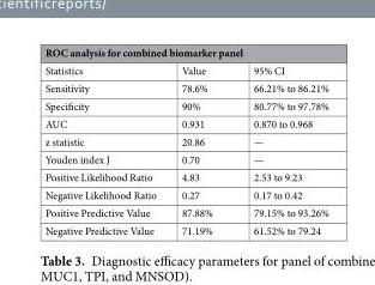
<table><thead><tr><td colspan="3">ROC analysis for combined biomarker panel</td></tr><tr><td>Statistics</td><td>Value</td><td>95% CI</td></tr></thead><tbody><tr><td>Sensitivity</td><td>78.6%</td><td>66.21% to 86.21%</td></tr><tr><td>Specificity</td><td>90%</td><td>80.77% to 97.78%</td></tr><tr><td>AUC</td><td>0.931</td><td>0.870 to 0.968</td></tr><tr><td>z statistic</td><td>20.86</td><td>—</td></tr><tr><td>Youden index J</td><td>0.70</td><td>—</td></tr><tr><td>Positive Likelihood Ratio</td><td>4.83</td><td>2.53 to 9.23</td></tr><tr><td>Negative Likelihood Ratio</td><td>0.27</td><td>0.17 to 0.42</td></tr><tr><td>Positive Predictive Value</td><td>87.88%</td><td>79.15% to 93.26%</td></tr><tr><td>Negative Predictive Value</td><td>71.19%</td><td>61.52% to 79.24</td></tr></tbody></table>